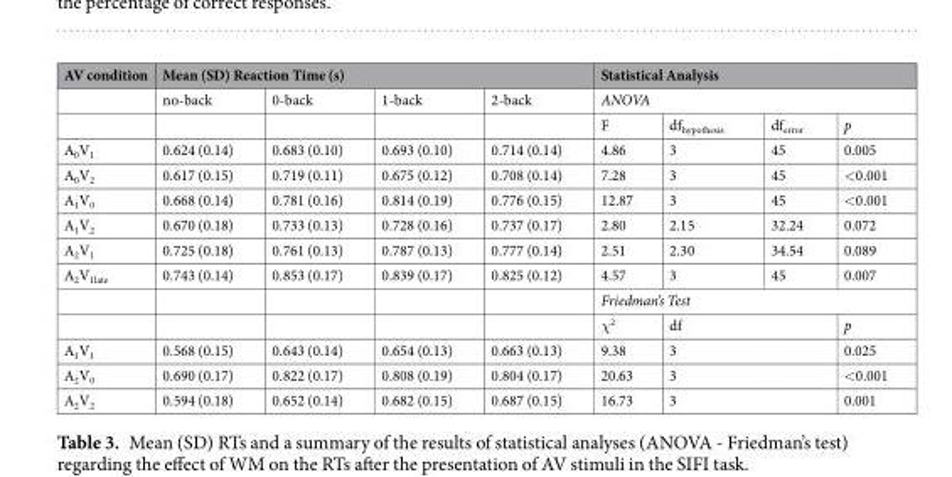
<table><thead><tr><td rowspan="3">AV condition</td><td colspan="4">Mean (SD) Reaction Time (s)</td><td rowspan="2" colspan="4">Statistical Analysis ANOVA</td></tr><tr><td rowspan="2">no-back</td><td rowspan="2">0-back</td><td rowspan="2">1-back</td><td rowspan="2">2-back</td></tr><tr><td>F</td><td>df<sub>hypothesis</sub></td><td>df<sub>error</sub></td><td>p</td></tr></thead><tbody><tr><td>A<sub>0</sub>V<sub>1</sub></td><td>0.624 (0.14)</td><td>0.683 (0.10)</td><td>0.693 (0.10)</td><td>0.714 (0.14)</td><td>4.86</td><td>3</td><td>45</td><td>0.005</td></tr><tr><td>A<sub>0</sub>V<sub>2</sub></td><td>0.617 (0.15)</td><td>0.719 (0.11)</td><td>0.675 (0.12)</td><td>0.708 (0.14)</td><td>7.28</td><td>3</td><td>45</td><td>&lt;0.001</td></tr><tr><td>A<sub>1</sub>V<sub>0</sub></td><td>0.668 (0.14)</td><td>0.781 (0.16)</td><td>0.814 (0.19)</td><td>0.776 (0.15)</td><td>12.87</td><td>3</td><td>45</td><td>&lt;0.001</td></tr><tr><td>A<sub>1</sub>V<sub>2</sub></td><td>0.670 (0.18)</td><td>0.733 (0.13)</td><td>0.728 (0.16)</td><td>0.737 (0.17)</td><td>2.80</td><td>2.15</td><td>32.24</td><td>0.072</td></tr><tr><td>A<sub>2</sub>V<sub>1</sub></td><td>0.725 (0.18)</td><td>0.761 (0.13)</td><td>0.787 (0.13)</td><td>0.777 (0.14)</td><td>2.51</td><td>2.30</td><td>34.54</td><td>0.089</td></tr><tr><td rowspan="3">A<sub>2</sub>V<sub>1late</sub></td><td>0.743 (0.14)</td><td>0.853 (0.17)</td><td>0.839 (0.17)</td><td>0.825 (0.12)</td><td>4.57</td><td>3</td><td>45</td><td>0.007</td></tr><tr><td></td><td></td><td></td><td></td><td colspan="4">Friedman’s Test</td></tr><tr><td></td><td></td><td></td><td></td><td>χ<sup>2</sup></td><td colspan="2">df</td><td>p</td></tr><tr><td>A<sub>1</sub>V<sub>1</sub></td><td>0.568 (0.15)</td><td>0.643 (0.14)</td><td>0.654 (0.13)</td><td>0.663 (0.13)</td><td>9.38</td><td colspan="2">3</td><td>0.025</td></tr><tr><td>A<sub>2</sub>V<sub>0</sub></td><td>0.690 (0.17)</td><td>0.822 (0.17)</td><td>0.808 (0.19)</td><td>0.804 (0.17)</td><td>20.63</td><td colspan="2">3</td><td>&lt;0.001</td></tr><tr><td>A<sub>2</sub>V<sub>2</sub></td><td>0.594 (0.18)</td><td>0.652 (0.14)</td><td>0.682 (0.15)</td><td>0.687 (0.15)</td><td>16.73</td><td colspan="2">3</td><td>0.001</td></tr></tbody></table>